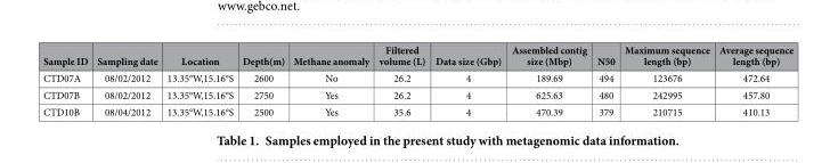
<table><thead><tr><td>Sample ID</td><td>Sampling date</td><td>Location</td><td>Depth(m)</td><td>Methane anomaly</td><td>Filtered volume (L)</td><td>Data size (Gbp)</td><td>Assembled contig size (Mbp)</td><td>N50</td><td>Maximum sequence length (bp)</td><td>Average sequence length (bp)</td></tr></thead><tbody><tr><td>CTD07A</td><td>08/02/2012</td><td>13.35°W,15.16°S</td><td>2600</td><td>No</td><td>26.2</td><td>4</td><td>189.69</td><td>494</td><td>123676</td><td>472.64</td></tr><tr><td>CTD07B</td><td>08/02/2012</td><td>13.35°W,15.16°S</td><td>2750</td><td>Yes</td><td>26.2</td><td>4</td><td>625.63</td><td>480</td><td>242995</td><td>457.80</td></tr><tr><td>CTD10B</td><td>08/04/2012</td><td>13.35°W,15.16°S</td><td>2500</td><td>Yes</td><td>35.6</td><td>4</td><td>470.39</td><td>379</td><td>210715</td><td>410.13</td></tr></tbody></table>